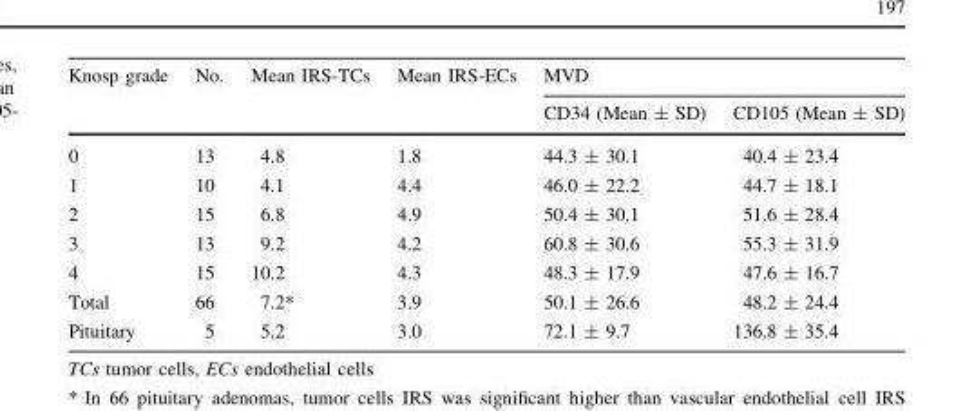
<table><thead><tr><td rowspan="2">Knosp grade</td><td rowspan="2">No.</td><td rowspan="2">Mean IRS-TCs</td><td rowspan="2">Mean IRS-ECs</td><td colspan="2">MVD</td></tr><tr><td>CD34 (Mean ± SD)</td><td>CD105 (Mean ± SD)</td></tr></thead><tbody><tr><td>0</td><td>13</td><td>4.8</td><td>1.8</td><td>44.3 ± 30.1</td><td>40.4 ± 23.4</td></tr><tr><td>1</td><td>10</td><td>4.1</td><td>4.4</td><td>46.0 ± 22.2</td><td>44.7 ± 18.1</td></tr><tr><td>2</td><td>15</td><td>6.8</td><td>4.9</td><td>50.4 ± 30.1</td><td>51.6 ± 28.4</td></tr><tr><td>3</td><td>13</td><td>9.2</td><td>4.2</td><td>60.8 ± 30.6</td><td>55.3 ± 31.9</td></tr><tr><td>4</td><td>15</td><td>10.2</td><td>4.3</td><td>48.3 ± 17.9</td><td>47.6 ± 16.7</td></tr><tr><td>Total</td><td>66</td><td>7.2*</td><td>3.9</td><td>50.1 ± 26.6</td><td>48.2 ± 24.4</td></tr><tr><td>Pituitary</td><td>5</td><td>5.2</td><td>3.0</td><td>72.1 ± 9.7</td><td>136.8 ± 35.4</td></tr></tbody></table>